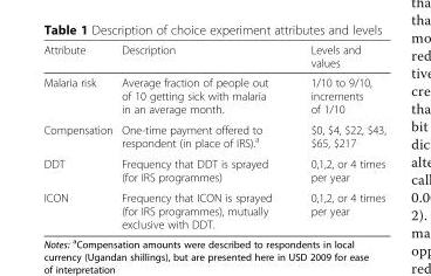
<table><thead><tr><td>Attribute</td><td>Description</td><td>Levels and values</td></tr></thead><tbody><tr><td>Malaria risk</td><td>Average fraction of people out of 10 getting sick with malaria in an average month.</td><td>1/10 to 9/10, increments of 1/10</td></tr><tr><td>Compensation</td><td>One-time payment offered to respondent (in place of IRS).<sup>a</sup></td><td>$0, $4, $22, $43, $65, $217</td></tr><tr><td>DDT</td><td>Frequency that DDT is sprayed (for IRS programmes)</td><td>0,1,2, or 4 times per year</td></tr><tr><td>ICON</td><td>Frequency that ICON is sprayed (for IRS programmes), mutually exclusive with DDT.</td><td>0,1,2, or 4 times per year</td></tr></tbody></table>